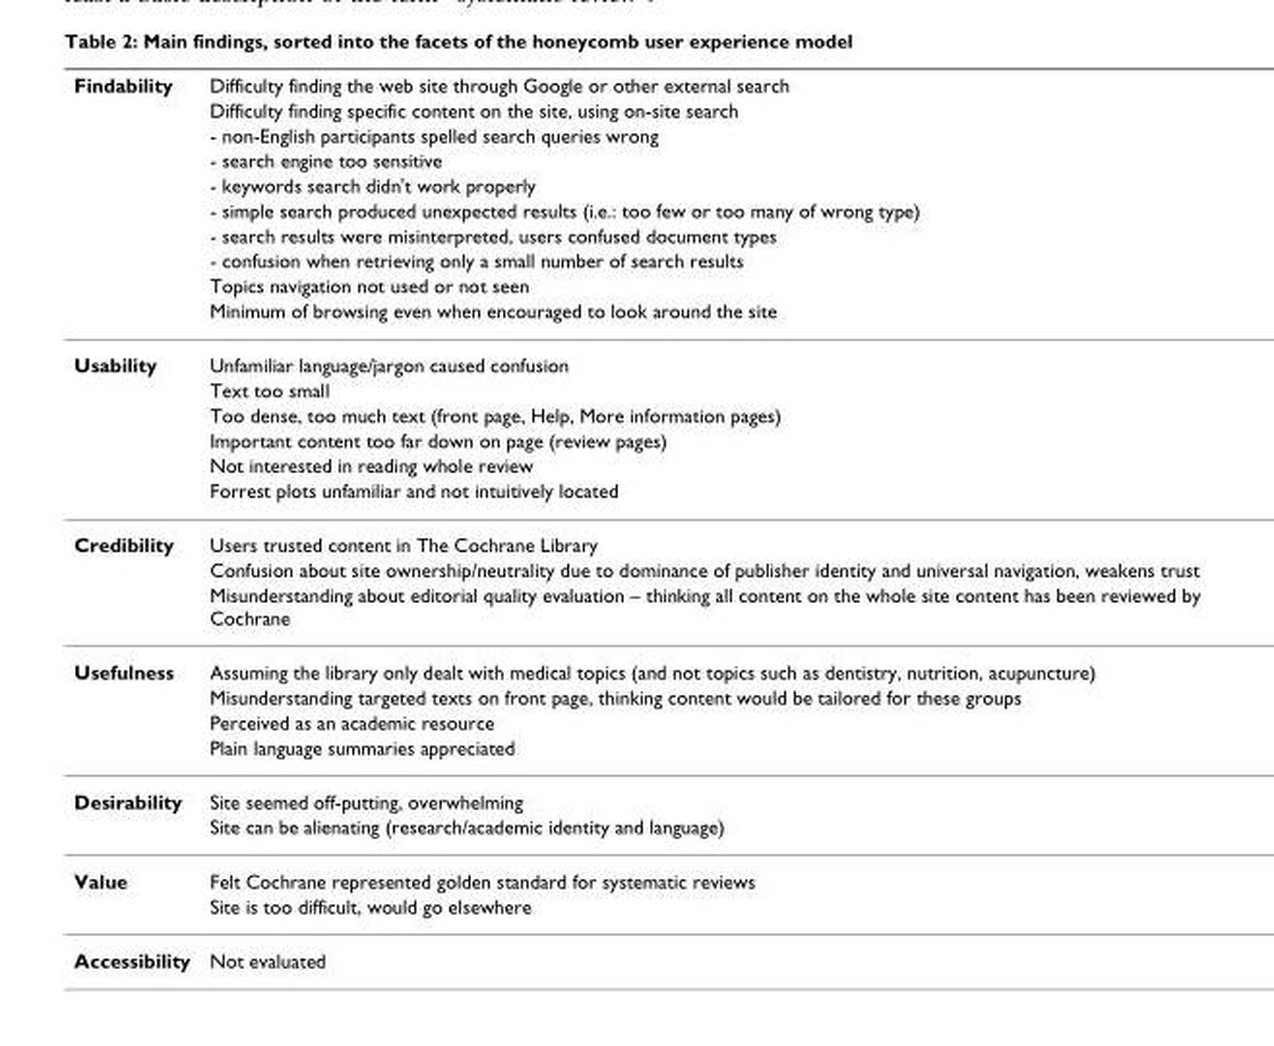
<table><tbody><tr><td rowspan="10">Findability</td><td>Difficulty finding the web site through Google or other external search</td></tr><tr><td>Difficulty finding specific content on the site, using on-site search</td></tr><tr><td>- non-English participants spelled search queries wrong</td></tr><tr><td>- search engine too sensitive</td></tr><tr><td>- keywords search didn&#x27;t work properly</td></tr><tr><td>- simple search produced unexpected results (i.e.: too few or too many of wrong type)</td></tr><tr><td>- search results were misinterpreted, users confused document types</td></tr><tr><td>- confusion when retrieving only a small number of search results</td></tr><tr><td>Topics navigation not used or not seen</td></tr><tr><td>Minimum of browsing even when encouraged to look around the site</td></tr><tr><td rowspan="6">Usability</td><td>Unfamiliar language/jargon caused confusion</td></tr><tr><td>Text too small</td></tr><tr><td>Too dense, too much text (front page, Help, More information pages)</td></tr><tr><td>Important content too far down on page (review pages)</td></tr><tr><td>Not interested in reading whole review</td></tr><tr><td>Forrest plots unfamiliar and not intuitively located</td></tr><tr><td rowspan="3">Credibility</td><td>Users trusted content in The Cochrane Library</td></tr><tr><td>Confusion about site ownership/neutrality due to dominance of publisher identity and universal navigation, weakens trust</td></tr><tr><td>Misunderstanding about editorial quality evaluation – thinking all content on the whole site content has been reviewed by Cochrane</td></tr><tr><td rowspan="4">Usefulness</td><td>Assuming the library only dealt with medical topics (and not topics such as dentistry, nutrition, acupuncture)</td></tr><tr><td>Misunderstanding targeted texts on front page, thinking content would be tailored for these groups</td></tr><tr><td>Perceived as an academic resource</td></tr><tr><td>Plain language summaries appreciated</td></tr><tr><td rowspan="2">Desirability</td><td>Site seemed off-putting, overwhelming</td></tr><tr><td>Site can be alienating (research/academic identity and language)</td></tr><tr><td rowspan="2">Value</td><td>Felt Cochrane represented golden standard for systematic reviews</td></tr><tr><td>Site is too difficult, would go elsewhere</td></tr><tr><td>Accessibility</td><td>Not evaluated</td></tr></tbody></table>